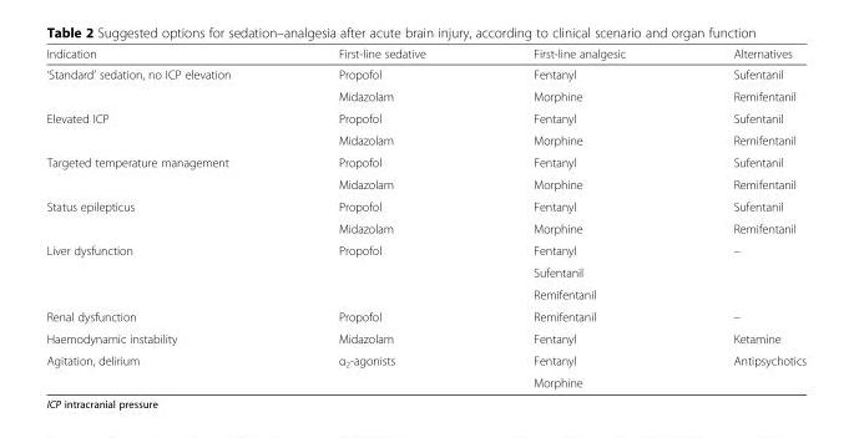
<table><thead><tr><td>Indication</td><td>First-line sedative</td><td>First-line analgesic</td><td>Alternatives</td></tr></thead><tbody><tr><td rowspan="2">‘Standard’ sedation, no ICP elevation</td><td>Propofol</td><td>Fentanyl</td><td>Sufentanil</td></tr><tr><td>Midazolam</td><td>Morphine</td><td>Remifentanil</td></tr><tr><td rowspan="2">Elevated ICP</td><td>Propofol</td><td>Fentanyl</td><td>Sufentanil</td></tr><tr><td>Midazolam</td><td>Morphine</td><td>Remifentanil</td></tr><tr><td rowspan="2">Targeted temperature management</td><td>Propofol</td><td>Fentanyl</td><td>Sufentanil</td></tr><tr><td>Midazolam</td><td>Morphine</td><td>Remifentanil</td></tr><tr><td rowspan="2">Status epilepticus</td><td>Propofol</td><td>Fentanyl</td><td>Sufentanil</td></tr><tr><td>Midazolam</td><td>Morphine</td><td>Remifentanil</td></tr><tr><td rowspan="3">Liver dysfunction</td><td>Propofol</td><td>Fentanyl</td><td>–</td></tr><tr><td></td><td>Sufentanil</td><td></td></tr><tr><td></td><td>Remifentanil</td><td></td></tr><tr><td>Renal dysfunction</td><td>Propofol</td><td>Remifentanil</td><td>–</td></tr><tr><td>Haemodynamic instability</td><td>Midazolam</td><td>Fentanyl</td><td>Ketamine</td></tr><tr><td rowspan="2">Agitation, delirium</td><td>α<sub>2</sub>-agonists</td><td>Fentanyl</td><td>Antipsychotics</td></tr><tr><td></td><td>Morphine</td><td></td></tr></tbody></table>